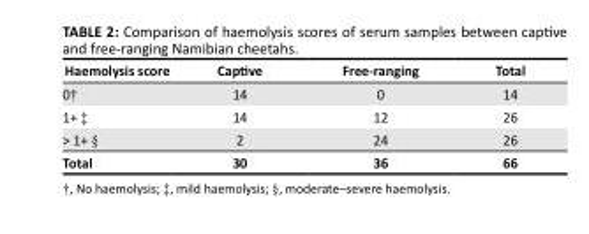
<table><thead><tr><td>Haemolysis score</td><td>Captive</td><td>Free-ranging</td><td>Total</td></tr></thead><tbody><tr><td>0†</td><td>14</td><td>0</td><td>14</td></tr><tr><td>1+ ‡</td><td>14</td><td>12</td><td>26</td></tr><tr><td>&gt; 1+ §</td><td>2</td><td>24</td><td>26</td></tr><tr><td>Total</td><td>30</td><td>36</td><td>66</td></tr></tbody></table>